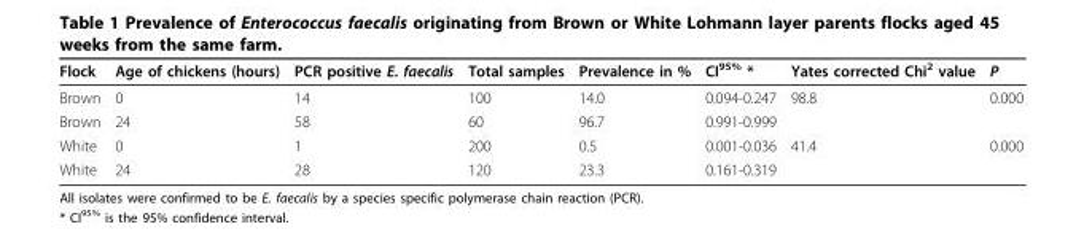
<table><thead><tr><td>Flock</td><td>Age of chickens (hours)</td><td>PCR positive E. faecalis</td><td>Total samples</td><td>Prevalence in %</td><td>CI<sup>95%</sup> *</td><td>Yates corrected Chi<sup>2</sup> value</td><td>P</td></tr></thead><tbody><tr><td>Brown</td><td>0</td><td>14</td><td>100</td><td>14.0</td><td>0.094-0.247</td><td>98.8</td><td>0.000</td></tr><tr><td>Brown</td><td>24</td><td>58</td><td>60</td><td>96.7</td><td>0.991-0.999</td><td></td><td></td></tr><tr><td>White</td><td>0</td><td>1</td><td>200</td><td>0.5</td><td>0.001-0.036</td><td>41.4</td><td>0.000</td></tr><tr><td>White</td><td>24</td><td>28</td><td>120</td><td>23.3</td><td>0.161-0.319</td><td></td><td></td></tr></tbody></table>